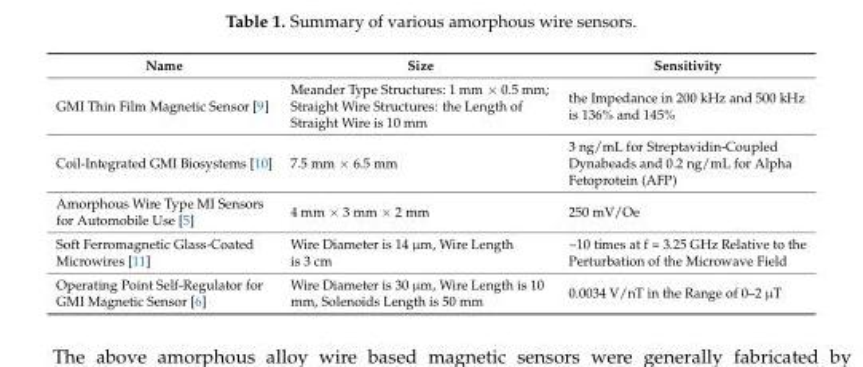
<table><thead><tr><td>Name</td><td>Size</td><td>Sensitivity</td></tr></thead><tbody><tr><td>GMI Thin Film Magnetic Sensor [9]</td><td>Meander Type Structures: 1 mm × 0.5 mm; Straight Wire Structures: the Length of Straight Wire is 10 mm</td><td>the Impedance in 200 kHz and 500 kHz is 136% and 145%</td></tr><tr><td>Coil-Integrated GMI Biosystems [10]</td><td>7.5 mm × 6.5 mm</td><td>3 ng/mL for Streptavidin-Coupled Dynabeads and 0.2 ng/mL for Alpha Fetoprotein (AFP)</td></tr><tr><td>Amorphous Wire Type MI Sensors for Automobile Use [5]</td><td>4 mm × 3 mm × 2 mm</td><td>250 mV/Oe</td></tr><tr><td>Soft Ferromagnetic Glass-Coated Microwires [11]</td><td>Wire Diameter is 14 µm, Wire Length is 3 cm</td><td>~10 times at f = 3.25 GHz Relative to the Perturbation of the Microwave Field</td></tr><tr><td>Operating Point Self-Regulator for GMI Magnetic Sensor [6]</td><td>Wire Diameter is 30 µm, Wire Length is 10 mm, Solenoids Length is 50 mm</td><td>0.0034 V/nT in the Range of 0–2 µT</td></tr></tbody></table>